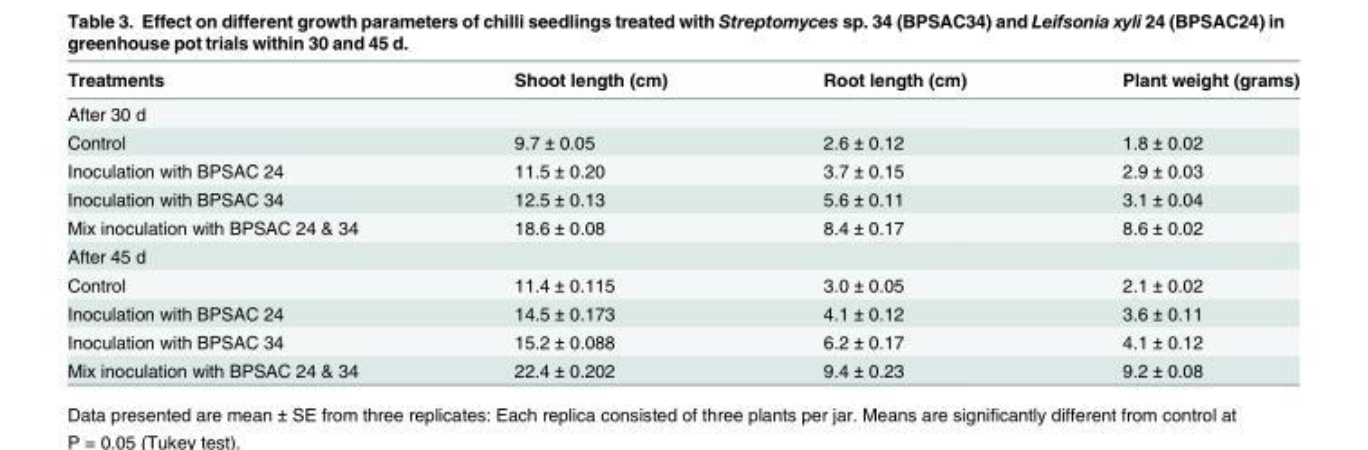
<table><thead><tr><td>Treatments</td><td>Shoot length (cm)</td><td>Root length (cm)</td><td>Plant weight (grams)</td></tr></thead><tbody><tr><td colspan="4">After 30 d</td></tr><tr><td>Control</td><td>9.7 ± 0.05</td><td>2.6 ± 0.12</td><td>1.8 ± 0.02</td></tr><tr><td>Inoculation with BPSAC 24</td><td>11.5 ± 0.20</td><td>3.7 ± 0.15</td><td>2.9 ± 0.03</td></tr><tr><td>Inoculation with BPSAC 34</td><td>12.5 ± 0.13</td><td>5.6 ± 0.11</td><td>3.1 ± 0.04</td></tr><tr><td>Mix inoculation with BPSAC 24 &amp; 34</td><td>18.6 ± 0.08</td><td>8.4 ± 0.17</td><td>8.6 ± 0.02</td></tr><tr><td colspan="4">After 45 d</td></tr><tr><td>Control</td><td>11.4 ± 0.115</td><td>3.0 ± 0.05</td><td>2.1 ± 0.02</td></tr><tr><td>Inoculation with BPSAC 24</td><td>14.5 ± 0.173</td><td>4.1 ± 0.12</td><td>3.6 ± 0.11</td></tr><tr><td>Inoculation with BPSAC 34</td><td>15.2 ± 0.088</td><td>6.2 ± 0.17</td><td>4.1 ± 0.12</td></tr><tr><td>Mix inoculation with BPSAC 24 &amp; 34</td><td>22.4 ± 0.202</td><td>9.4 ± 0.23</td><td>9.2 ± 0.08</td></tr></tbody></table>